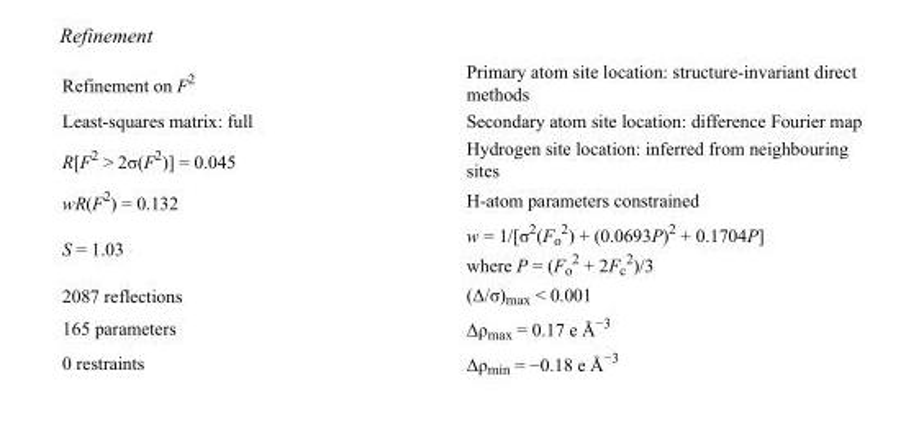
<table><tbody><tr><td>Refinement on F<sup>2</sup></td><td>Primary atom site location: structure-invariant direct methods</td></tr><tr><td>Least-squares matrix: full</td><td>Secondary atom site location: difference Fourier map</td></tr><tr><td>R[F<sup>2</sup> &gt; 2σ(F<sup>2</sup>)] = 0.045</td><td>Hydrogen site location: inferred from neighbouring sites</td></tr><tr><td>wR(F<sup>2</sup>) = 0.132</td><td>H-atom parameters constrained</td></tr><tr><td>S = 1.03</td><td>w = 1/[σ<sup>2</sup>(F<sub>o</sub> <sup>2</sup>) + (0.0693P)<sup>2</sup> + 0.1704P] where P = (F<sub>o</sub> <sup>2</sup> + 2F<sub>c</sub> <sup>2</sup>)/3</td></tr><tr><td>2087 reflections</td><td>(Δ/σ)<sub>max</sub> &lt; 0.001</td></tr><tr><td>165 parameters</td><td>Δρ<sub>max</sub> = 0.17 e Å<sup>−3</sup></td></tr><tr><td>0 restraints</td><td>Δρ<sub>min</sub> = −0.18 e Å<sup>−3</sup></td></tr></tbody></table>